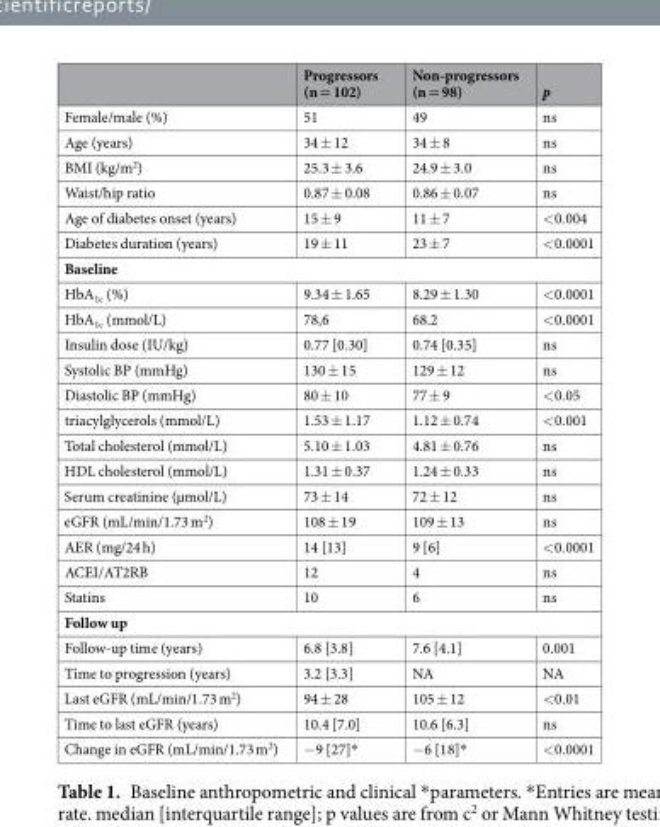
<table><thead><tr><td></td><td>Progressors (n = 102)</td><td>Non-progressors (n = 98)</td><td>p</td></tr></thead><tbody><tr><td>Female/male (%)</td><td>51</td><td>49</td><td>ns</td></tr><tr><td>Age (years)</td><td>34 ± 12</td><td>34 ± 8</td><td>ns</td></tr><tr><td>BMI (kg/m<sup>2</sup>)</td><td>25.3 ± 3.6</td><td>24.9 ± 3.0</td><td>ns</td></tr><tr><td>Waist/hip ratio</td><td>0.87 ± 0.08</td><td>0.86 ± 0.07</td><td>ns</td></tr><tr><td>Age of diabetes onset (years)</td><td>15 ± 9</td><td>11 ± 7</td><td>&lt;0.004</td></tr><tr><td>Diabetes duration (years)</td><td>19 ± 11</td><td>23 ± 7</td><td>&lt;0.0001</td></tr><tr><td colspan="4">Baseline</td></tr><tr><td>HbA<sub>1c</sub> (%)</td><td>9.34 ± 1.65</td><td>8.29 ± 1.30</td><td>&lt;0.0001</td></tr><tr><td>HbA<sub>1c</sub> (mmol/L)</td><td>78,6</td><td>68.2</td><td>&lt;0.0001</td></tr><tr><td>Insulin dose (IU/kg)</td><td>0.77 [0.30]</td><td>0.74 [0.35]</td><td>ns</td></tr><tr><td>Systolic BP (mmHg)</td><td>130 ± 15</td><td>129 ± 12</td><td>ns</td></tr><tr><td>Diastolic BP (mmHg)</td><td>80 ± 10</td><td>77 ± 9</td><td>&lt;0.05</td></tr><tr><td>triacylglycerols (mmol/L)</td><td>1.53 ± 1.17</td><td>1.12 ± 0.74</td><td>&lt;0.001</td></tr><tr><td>Total cholesterol (mmol/L)</td><td>5.10 ± 1.03</td><td>4.81 ± 0.76</td><td>ns</td></tr><tr><td>HDL cholesterol (mmol/L)</td><td>1.31 ± 0.37</td><td>1.24 ± 0.33</td><td>ns</td></tr><tr><td>Serum creatinine (µmol/L)</td><td>73 ± 14</td><td>72 ± 12</td><td>ns</td></tr><tr><td>eGFR (mL/min/1.73 m<sup>2</sup>)</td><td>108 ± 19</td><td>109 ± 13</td><td>ns</td></tr><tr><td>AER (mg/24 h)</td><td>14 [13]</td><td>9 [6]</td><td>&lt;0.0001</td></tr><tr><td>ACEI/AT2RB</td><td>12</td><td>4</td><td>ns</td></tr><tr><td>Statins</td><td>10</td><td>6</td><td>ns</td></tr><tr><td colspan="4">Follow up</td></tr><tr><td>Follow-up time (years)</td><td>6.8 [3.8]</td><td>7.6 [4.1]</td><td>0.001</td></tr><tr><td>Time to progression (years)</td><td>3.2 [3.3]</td><td>NA</td><td>NA</td></tr><tr><td>Last eGFR (mL/min/1.73 m<sup>2</sup>)</td><td>94 ± 28</td><td>105 ± 12</td><td>&lt;0.01</td></tr><tr><td>Time to last eGFR (years)</td><td>10.4 [7.0]</td><td>10.6 [6.3]</td><td>ns</td></tr><tr><td>Change in eGFR (mL/min/1.73 m<sup>2</sup>)</td><td>−9 [27]*</td><td>−6 [18]*</td><td>&lt;0.0001</td></tr></tbody></table>